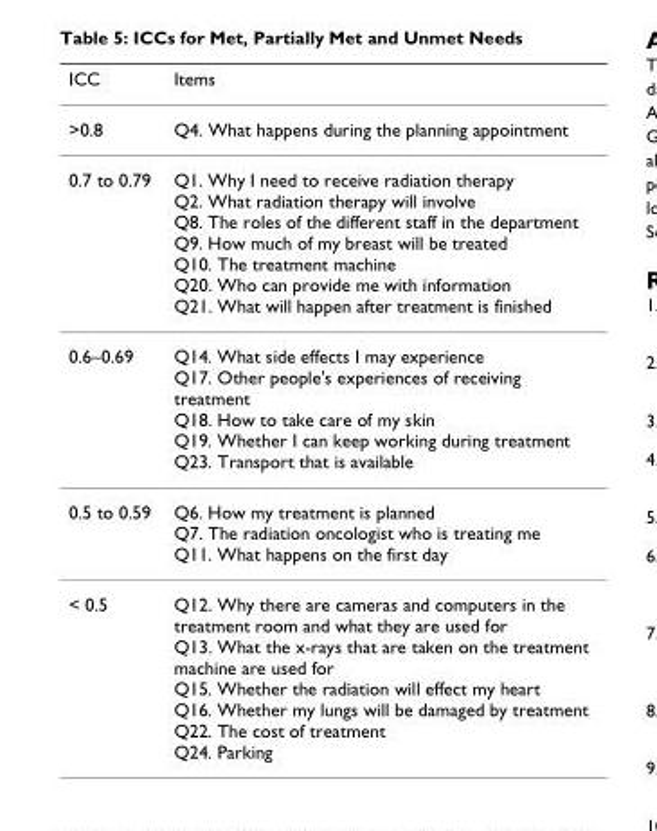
<table><thead><tr><td>ICC</td><td>Items</td></tr></thead><tbody><tr><td>&gt;0.8</td><td>Q4. What happens during the planning appointment</td></tr><tr><td>0.7 to 0.79</td><td>Q1. Why I need to receive radiation therapy Q2. What radiation therapy will involve Q8. The roles of the different staff in the department Q9. How much of my breast will be treated Q10. The treatment machine Q20. Who can provide me with information Q21. What will happen after treatment is finished</td></tr><tr><td>0.6–0.69</td><td>Q14. What side effects I may experience Q17. Other people&#x27;s experiences of receiving treatment Q18. How to take care of my skin Q19. Whether I can keep working during treatment Q23. Transport that is available</td></tr><tr><td>0.5 to 0.59</td><td>Q6. How my treatment is planned Q7. The radiation oncologist who is treating me Q11. What happens on the first day</td></tr><tr><td>&lt; 0.5</td><td>Q12. Why there are cameras and computers in the treatment room and what they are used for Q13. What the x-rays that are taken on the treatment machine are used for Q15. Whether the radiation will effect my heart Q16. Whether my lungs will be damaged by treatment Q22. The cost of treatment Q24. Parking</td></tr></tbody></table>